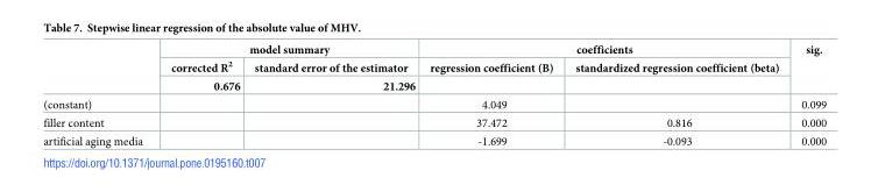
<table><thead><tr><td rowspan="3"></td><td colspan="2">model summary</td><td colspan="2">coefficients</td><td rowspan="3">sig.</td></tr><tr><td rowspan="2">corrected R<sup>2</sup> 0.676</td><td rowspan="2">standard error of the estimator 21.296</td><td rowspan="2">regression coefficient (B)</td><td rowspan="2">standardized regression coefficient (beta)</td></tr><tr></tr></thead><tbody><tr><td>(constant)</td><td></td><td></td><td>4.049</td><td></td><td>0.099</td></tr><tr><td>filler content</td><td></td><td></td><td>37.472</td><td>0.816</td><td>0.000</td></tr><tr><td>artificial aging media</td><td></td><td></td><td>-1.699</td><td>-0.093</td><td>0.000</td></tr></tbody></table>